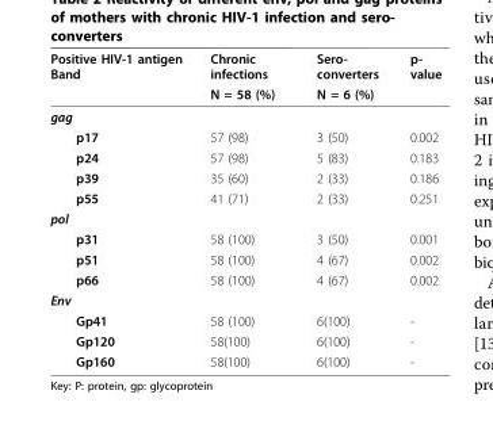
<table><thead><tr><td rowspan="2">Positive HIV-1 antigen Band</td><td rowspan="2">Chronic infections N = 58 (%)</td><td rowspan="2">Sero- converters N = 6 (%)</td><td rowspan="2">p- value</td></tr><tr></tr></thead><tbody><tr><td colspan="4">gag</td></tr><tr><td>p17</td><td>57 (98)</td><td>3 (50)</td><td>0.002</td></tr><tr><td>p24</td><td>57 (98)</td><td>5 (83)</td><td>0.183</td></tr><tr><td>p39</td><td>35 (60)</td><td>2 (33)</td><td>0.186</td></tr><tr><td>p55</td><td>41 (71)</td><td>2 (33)</td><td>0.251</td></tr><tr><td colspan="4">pol</td></tr><tr><td>p31</td><td>58 (100)</td><td>3 (50)</td><td>0.001</td></tr><tr><td>p51</td><td>58 (100)</td><td>4 (67)</td><td>0.002</td></tr><tr><td>p66</td><td>58 (100)</td><td>4 (67)</td><td>0.002</td></tr><tr><td colspan="4">Env</td></tr><tr><td>Gp41</td><td>58 (100)</td><td>6(100)</td><td>-</td></tr><tr><td>Gp120</td><td>58(100)</td><td>6(100)</td><td>-</td></tr><tr><td>Gp160</td><td>58(100)</td><td>6(100)</td><td>-</td></tr></tbody></table>